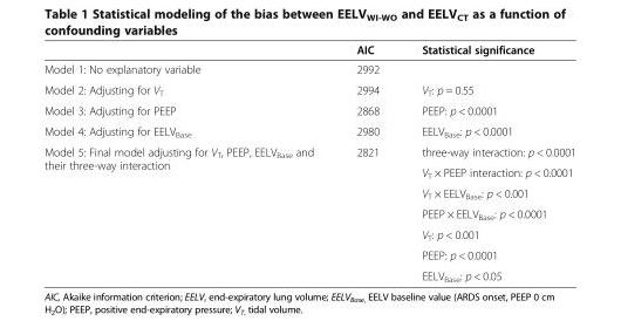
<table><thead><tr><td></td><td>AIC</td><td>Statistical significance</td></tr></thead><tbody><tr><td>Model 1: No explanatory variable</td><td>2992</td><td></td></tr><tr><td>Model 2: Adjusting for V<sub>T</sub></td><td>2994</td><td>V<sub>T</sub>: p = 0.55</td></tr><tr><td>Model 3: Adjusting for PEEP</td><td>2868</td><td>PEEP: p &lt; 0.0001</td></tr><tr><td>Model 4: Adjusting for EELV<sub>Base</sub></td><td>2980</td><td>EELV<sub>Base</sub>: p &lt; 0.0001</td></tr><tr><td rowspan="7">Model 5: Final model adjusting for V<sub>T</sub>, PEEP, EELV<sub>Base</sub> and their three-way interaction</td><td rowspan="6">2821</td><td>three-way interaction: p &lt; 0.0001</td></tr><tr><td>V<sub>T</sub> × PEEP interaction: p &lt; 0.0001</td></tr><tr><td>V<sub>T</sub> × EELV<sub>Base</sub>: p &lt; 0.001</td></tr><tr><td>PEEP × EELV<sub>Base</sub>: p &lt; 0.0001</td></tr><tr><td>V<sub>T</sub>: p &lt; 0.001</td></tr><tr><td>PEEP: p &lt; 0.0001</td></tr><tr><td></td><td>EELV<sub>Base</sub>: p &lt; 0.05</td></tr></tbody></table>